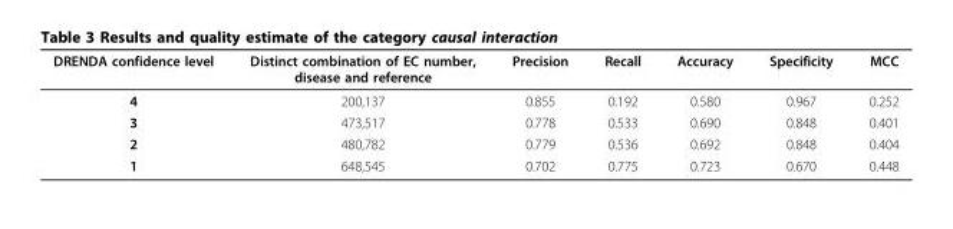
<table><thead><tr><td>DRENDA confidence level</td><td>Distinct combination of EC number, disease and reference</td><td>Precision</td><td>Recall</td><td>Accuracy</td><td>Specificity</td><td>MCC</td></tr></thead><tbody><tr><td>4</td><td>200,137</td><td>0.855</td><td>0.192</td><td>0.580</td><td>0.967</td><td>0.252</td></tr><tr><td>3</td><td>473,517</td><td>0.778</td><td>0.533</td><td>0.690</td><td>0.848</td><td>0.401</td></tr><tr><td>2</td><td>480,782</td><td>0.779</td><td>0.536</td><td>0.692</td><td>0.848</td><td>0.404</td></tr><tr><td>1</td><td>648,545</td><td>0.702</td><td>0.775</td><td>0.723</td><td>0.670</td><td>0.448</td></tr></tbody></table>